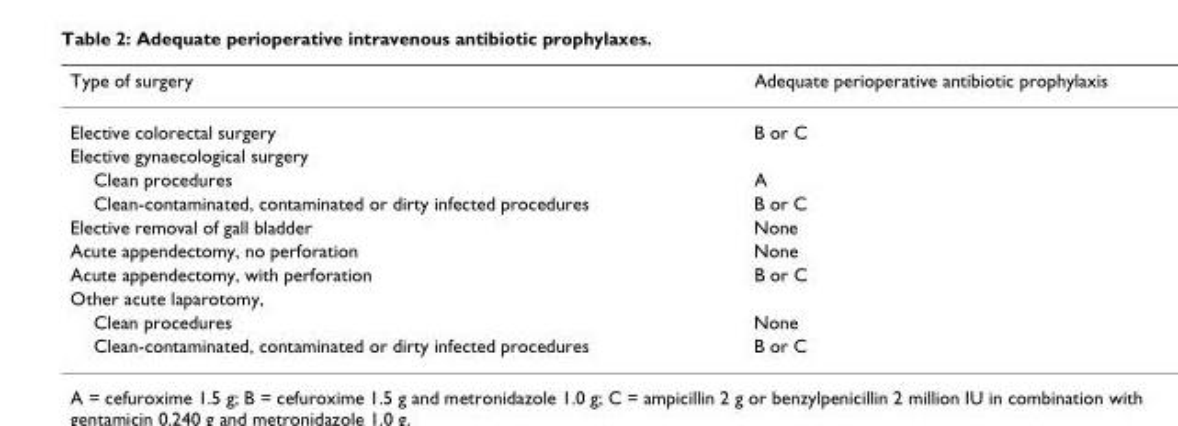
<table><thead><tr><td>Type of surgery</td><td>Adequate perioperative antibiotic prophylaxis</td></tr></thead><tbody><tr><td>Elective colorectal surgery</td><td>B or C</td></tr><tr><td colspan="2">Elective gynaecological surgery</td></tr><tr><td>Clean procedures</td><td>A</td></tr><tr><td>Clean-contaminated, contaminated or dirty infected procedures</td><td>B or C</td></tr><tr><td>Elective removal of gall bladder</td><td>None</td></tr><tr><td>Acute appendectomy, no perforation</td><td>None</td></tr><tr><td>Acute appendectomy, with perforation</td><td>B or C</td></tr><tr><td colspan="2">Other acute laparotomy,</td></tr><tr><td>Clean procedures</td><td>None</td></tr><tr><td>Clean-contaminated, contaminated or dirty infected procedures</td><td>B or C</td></tr></tbody></table>